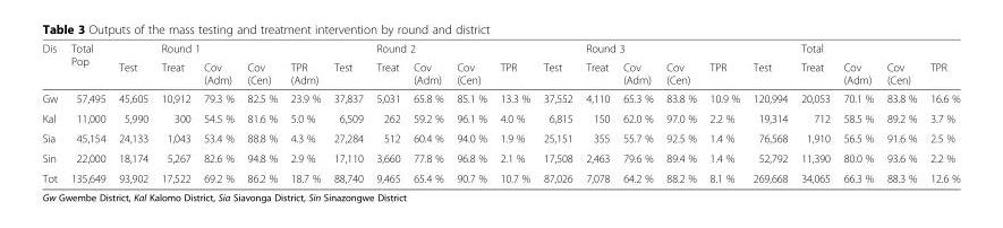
<table><thead><tr><td rowspan="2">Dis</td><td rowspan="2">Total Pop</td><td rowspan="2">Test</td><td colspan="4">Round 1</td><td rowspan="2">Test</td><td colspan="4">Round 2</td><td rowspan="2">Test</td><td colspan="4">Round 3</td><td rowspan="2">Test</td><td colspan="4">Total</td></tr><tr><td>Treat</td><td>Cov (Adm)</td><td>Cov (Cen)</td><td>TPR (Adm)</td><td>Treat</td><td>Cov (Adm)</td><td>Cov (Cen)</td><td>TPR</td><td>Treat</td><td>Cov (Adm)</td><td>Cov (Cen)</td><td>TPR</td><td>Treat</td><td>Cov (Adm)</td><td>Cov (Cen)</td><td>TPR</td></tr></thead><tbody><tr><td>Gw</td><td>57,495</td><td>45,605</td><td>10,912</td><td>79.3 %</td><td>82.5 %</td><td>23.9 %</td><td>37,837</td><td>5,031</td><td>65.8 %</td><td>85.1 %</td><td>13.3 %</td><td>37,552</td><td>4,110</td><td>65.3 %</td><td>83.8 %</td><td>10.9 %</td><td>120,994</td><td>20,053</td><td>70.1 %</td><td>83.8 %</td><td>16.6 %</td></tr><tr><td>Kal</td><td>11,000</td><td>5,990</td><td>300</td><td>54.5 %</td><td>81.6 %</td><td>5.0 %</td><td>6,509</td><td>262</td><td>59.2 %</td><td>96.1 %</td><td>4.0 %</td><td>6,815</td><td>150</td><td>62.0 %</td><td>97.0 %</td><td>2.2 %</td><td>19,314</td><td>712</td><td>58.5 %</td><td>89.2 %</td><td>3.7 %</td></tr><tr><td>Sia</td><td>45,154</td><td>24,133</td><td>1,043</td><td>53.4 %</td><td>88.8 %</td><td>4.3 %</td><td>27,284</td><td>512</td><td>60.4 %</td><td>94.0 %</td><td>1.9 %</td><td>25,151</td><td>355</td><td>55.7 %</td><td>92.5 %</td><td>1.4 %</td><td>76,568</td><td>1,910</td><td>56.5 %</td><td>91.6 %</td><td>2.5 %</td></tr><tr><td>Sin</td><td>22,000</td><td>18,174</td><td>5,267</td><td>82.6 %</td><td>94.8 %</td><td>2.9 %</td><td>17,110</td><td>3,660</td><td>77.8 %</td><td>96.8 %</td><td>2.1 %</td><td>17,508</td><td>2,463</td><td>79.6 %</td><td>89.4 %</td><td>1.4 %</td><td>52,792</td><td>11,390</td><td>80.0 %</td><td>93.6 %</td><td>2.2 %</td></tr><tr><td>Tot</td><td>135,649</td><td>93,902</td><td>17,522</td><td>69.2 %</td><td>86.2 %</td><td>18.7 %</td><td>88,740</td><td>9,465</td><td>65.4 %</td><td>90.7 %</td><td>10.7 %</td><td>87,026</td><td>7,078</td><td>64.2 %</td><td>88.2 %</td><td>8.1 %</td><td>269,668</td><td>34,065</td><td>66.3 %</td><td>88.3 %</td><td>12.6 %</td></tr></tbody></table>